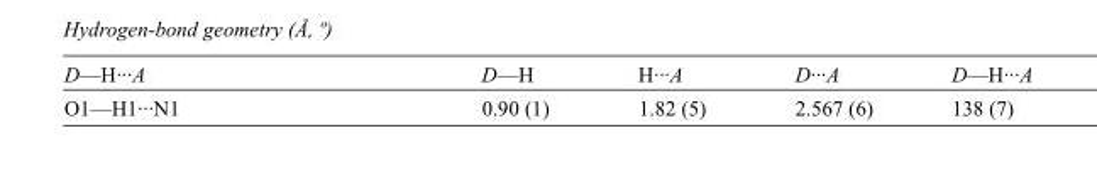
<table><tbody><tr><td>D—H···A</td><td>D—H</td><td>H···A</td><td>D···A</td><td>D—H···A</td></tr><tr><td>O1—H1···N1</td><td>0.90 (1)</td><td>1.82 (5)</td><td>2.567 (6)</td><td>138 (7)</td></tr></tbody></table>